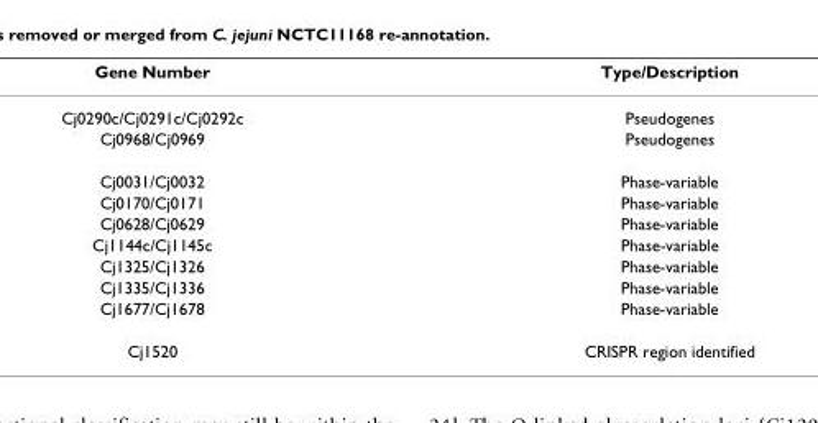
<table><thead><tr><td>Gene Number</td><td>Type/Description</td></tr></thead><tbody><tr><td>Cj0290c/Cj0291c/Cj0292c</td><td>Pseudogenes</td></tr><tr><td>Cj0968/Cj0969</td><td>Pseudogenes</td></tr><tr><td>Cj0031/Cj0032</td><td>Phase-variable</td></tr><tr><td>Cj0170/Cj0171</td><td>Phase-variable</td></tr><tr><td>Cj0628/Cj0629</td><td>Phase-variable</td></tr><tr><td>Cj1144c/Cj1145c</td><td>Phase-variable</td></tr><tr><td>Cj1325/Cj1326</td><td>Phase-variable</td></tr><tr><td>Cj1335/Cj1336</td><td>Phase-variable</td></tr><tr><td>Cj1677/Cj1678</td><td>Phase-variable</td></tr><tr><td>Cj1520</td><td>CRISPR region identified</td></tr></tbody></table>